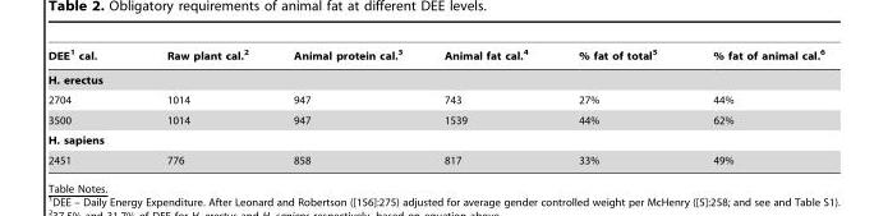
<table><thead><tr><td>DEE<sup>1</sup> cal.</td><td>Raw plant cal.<sup>2</sup></td><td>Animal protein cal.<sup>3</sup></td><td>Animal fat cal.<sup>4</sup></td><td>% fat of total<sup>5</sup></td><td>% fat of animal cal.<sup>6</sup></td></tr></thead><tbody><tr><td colspan="6">H. erectus</td></tr><tr><td>2704</td><td>1014</td><td>947</td><td>743</td><td>27%</td><td>44%</td></tr><tr><td>3500</td><td>1014</td><td>947</td><td>1539</td><td>44%</td><td>62%</td></tr><tr><td colspan="6">H. sapiens</td></tr><tr><td>2451</td><td>776</td><td>858</td><td>817</td><td>33%</td><td>49%</td></tr></tbody></table>